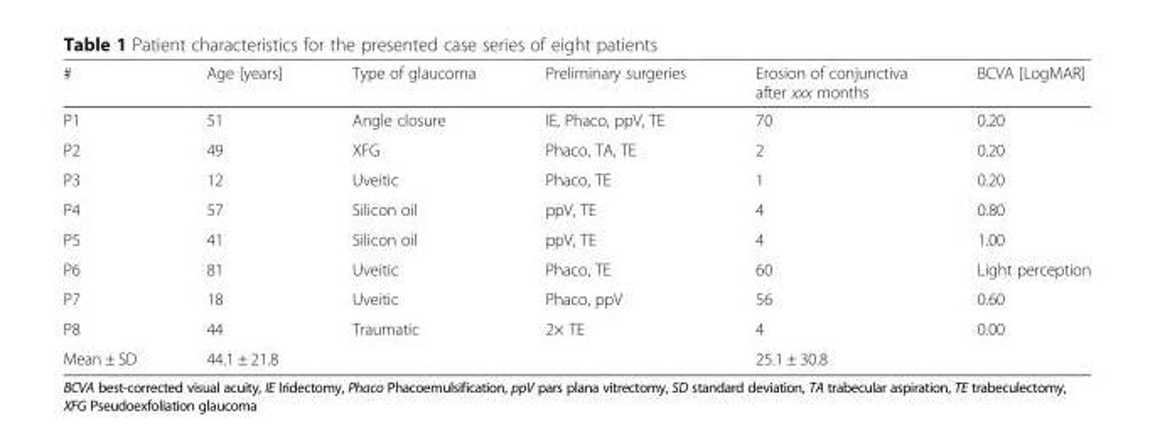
<table><thead><tr><td>#</td><td>Age [years]</td><td>Type of glaucoma</td><td>Preliminary surgeries</td><td>Erosion of conjunctiva after xxx months</td><td>BCVA [LogMAR]</td></tr></thead><tbody><tr><td>P1</td><td>51</td><td>Angle closure</td><td>IE, Phaco, ppV, TE</td><td>70</td><td>0.20</td></tr><tr><td>P2</td><td>49</td><td>XFG</td><td>Phaco, TA, TE</td><td>2</td><td>0.20</td></tr><tr><td>P3</td><td>12</td><td>Uveitic</td><td>Phaco, TE</td><td>1</td><td>0.20</td></tr><tr><td>P4</td><td>57</td><td>Silicon oil</td><td>ppV, TE</td><td>4</td><td>0.80</td></tr><tr><td>P5</td><td>41</td><td>Silicon oil</td><td>ppV, TE</td><td>4</td><td>1.00</td></tr><tr><td>P6</td><td>81</td><td>Uveitic</td><td>Phaco, TE</td><td>60</td><td>Light perception</td></tr><tr><td>P7</td><td>18</td><td>Uveitic</td><td>Phaco, ppV</td><td>56</td><td>0.60</td></tr><tr><td>P8</td><td>44</td><td>Traumatic</td><td>2× TE</td><td>4</td><td>0.00</td></tr><tr><td>Mean ± SD</td><td>44.1 ± 21.8</td><td></td><td></td><td>25.1 ± 30.8</td><td></td></tr></tbody></table>